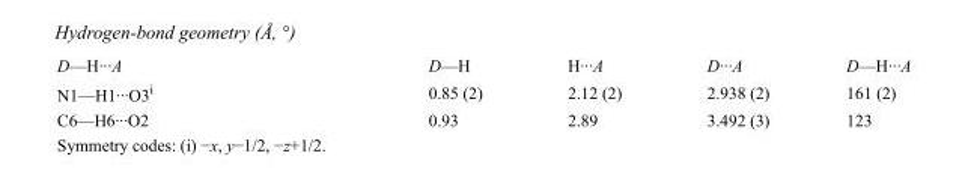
<table><tbody><tr><td>D—H···A</td><td>D—H</td><td>H···A</td><td>D···A</td><td>D—H···A</td></tr><tr><td>N1—H1···O3<sup>i</sup></td><td>0.85 (2)</td><td>2.12 (2)</td><td>2.938 (2)</td><td>161 (2)</td></tr><tr><td>C6—H6···O2</td><td>0.93</td><td>2.89</td><td>3.492 (3)</td><td>123</td></tr></tbody></table>